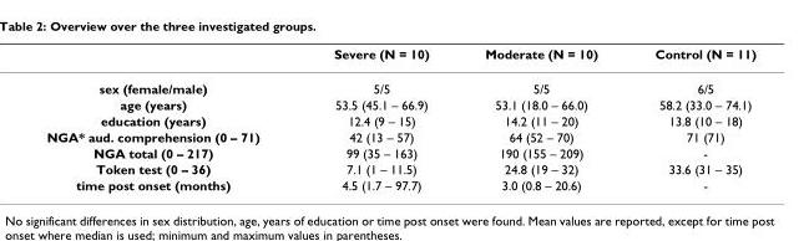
<table><thead><tr><td></td><td>Severe (N = 10)</td><td>Moderate (N = 10)</td><td>Control (N = 11)</td></tr></thead><tbody><tr><td>sex (female/male)</td><td>5/5</td><td>5/5</td><td>6/5</td></tr><tr><td>age (years)</td><td>53.5 (45.1 – 66.9)</td><td>53.1 (18.0 – 66.0)</td><td>58.2 (33.0 – 74.1)</td></tr><tr><td>education (years)</td><td>12.4 (9 – 15)</td><td>14.2 (11 – 20)</td><td>13.8 (10 – 18)</td></tr><tr><td>NGA* aud. comprehension (0 – 71)</td><td>42 (13 – 57)</td><td>64 (52 – 70)</td><td>71 (71)</td></tr><tr><td>NGA total (0 – 217)</td><td>99 (35 – 163)</td><td>190 (155 – 209)</td><td>-</td></tr><tr><td>Token test (0 – 36)</td><td>7.1 (1 – 11.5)</td><td>24.8 (19 – 32)</td><td>33.6 (31 – 35)</td></tr><tr><td>time post onset (months)</td><td>4.5 (1.7 – 97.7)</td><td>3.0 (0.8 – 20.6)</td><td>-</td></tr></tbody></table>